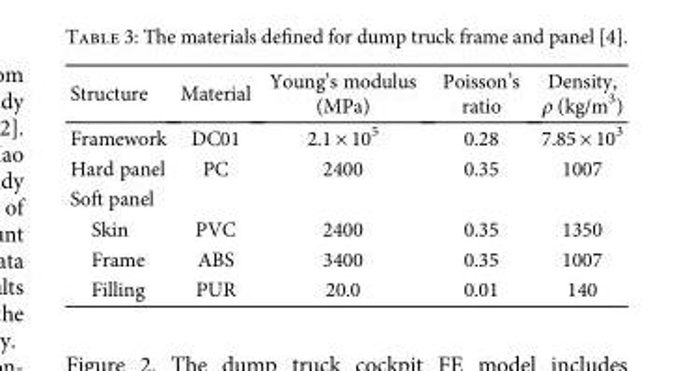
<table><thead><tr><td>Structure</td><td>Material</td><td>Young’s modulus (MPa)</td><td>Poisson’s ratio</td><td>Density, ρ (kg/m<sup>3</sup>)</td></tr></thead><tbody><tr><td>Framework</td><td>DC01</td><td>2.1 × 10<sup>5</sup></td><td>0.28</td><td>7.85 × 10<sup>3</sup></td></tr><tr><td>Hard panel</td><td>PC</td><td>2400</td><td>0.35</td><td>1007</td></tr><tr><td colspan="5">Soft panel</td></tr><tr><td>Skin</td><td>PVC</td><td>2400</td><td>0.35</td><td>1350</td></tr><tr><td>Frame</td><td>ABS</td><td>3400</td><td>0.35</td><td>1007</td></tr><tr><td>Filling</td><td>PUR</td><td>20.0</td><td>0.01</td><td>140</td></tr></tbody></table>